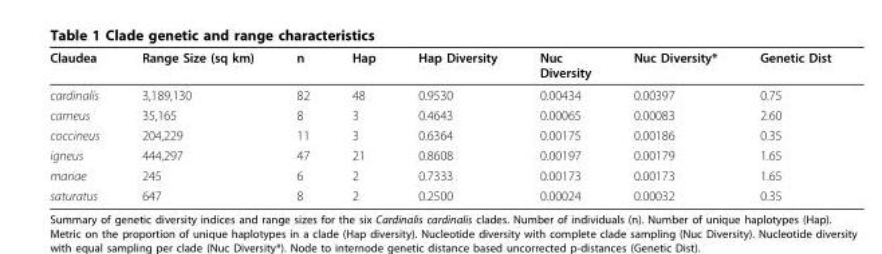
<table><thead><tr><td>Claudea</td><td>Range Size (sq km)</td><td>n</td><td>Hap</td><td>Hap Diversity</td><td>Nuc Diversity</td><td>Nuc Diversity*</td><td>Genetic Dist</td></tr></thead><tbody><tr><td>cardinalis</td><td>3,189,130</td><td>82</td><td>48</td><td>0.9530</td><td>0.00434</td><td>0.00397</td><td>0.75</td></tr><tr><td>carneus</td><td>35,165</td><td>8</td><td>3</td><td>0.4643</td><td>0.00065</td><td>0.00083</td><td>2.60</td></tr><tr><td>coccineus</td><td>204,229</td><td>11</td><td>3</td><td>0.6364</td><td>0.00175</td><td>0.00186</td><td>0.35</td></tr><tr><td>igneus</td><td>444,297</td><td>47</td><td>21</td><td>0.8608</td><td>0.00197</td><td>0.00179</td><td>1.65</td></tr><tr><td>mariae</td><td>245</td><td>6</td><td>2</td><td>0.7333</td><td>0.00173</td><td>0.00173</td><td>1.65</td></tr><tr><td>saturatus</td><td>647</td><td>8</td><td>2</td><td>0.2500</td><td>0.00024</td><td>0.00032</td><td>0.35</td></tr></tbody></table>